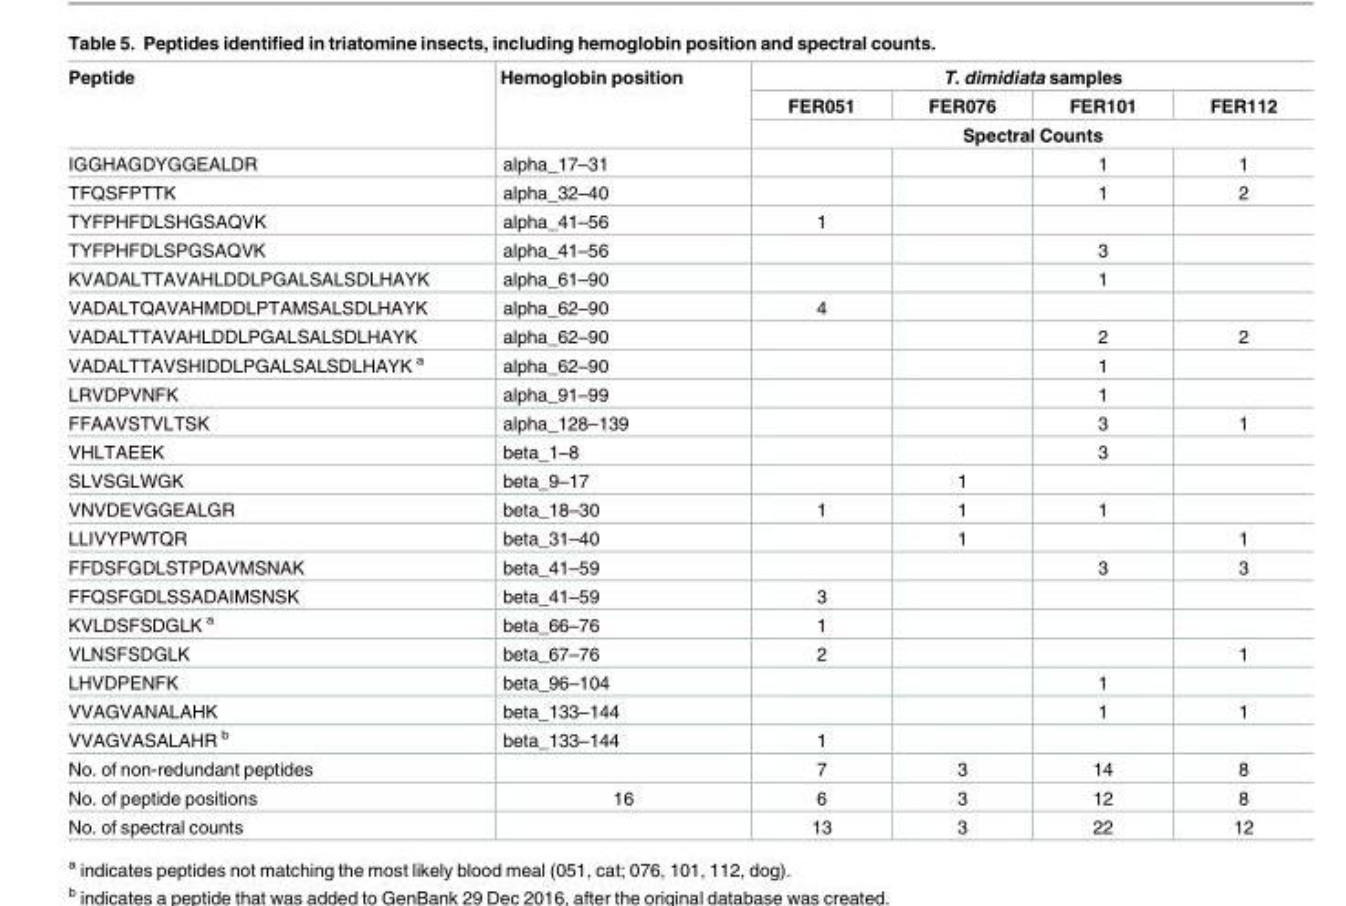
<table><thead><tr><td rowspan="3">Peptide</td><td rowspan="3">Hemoglobin position</td><td colspan="4">T. dimidiata samples</td></tr><tr><td>FER051</td><td>FER076</td><td>FER101</td><td>FER112</td></tr><tr><td colspan="4">Spectral Counts</td></tr></thead><tbody><tr><td>IGGHAGDYGGEALDR</td><td>alpha_17–31</td><td></td><td></td><td>1</td><td>1</td></tr><tr><td>TFQSFPTTK</td><td>alpha_32–40</td><td></td><td></td><td>1</td><td>2</td></tr><tr><td>TYFPHFDLSHGSAQVK</td><td>alpha_41–56</td><td>1</td><td></td><td></td><td></td></tr><tr><td>TYFPHFDLSPGSAQVK</td><td>alpha_41–56</td><td></td><td></td><td>3</td><td></td></tr><tr><td>KVADALTTAVAHLDDLPGALSALSDLHAYK</td><td>alpha_61–90</td><td></td><td></td><td>1</td><td></td></tr><tr><td>VADALTQAVAHMDDLPTAMSALSDLHAYK</td><td>alpha_62–90</td><td>4</td><td></td><td></td><td></td></tr><tr><td>VADALTTAVAHLDDLPGALSALSDLHAYK</td><td>alpha_62–90</td><td></td><td></td><td>2</td><td>2</td></tr><tr><td>VADALTTAVSHIDDLPGALSALSDLHAYK <sup>a</sup></td><td>alpha_62–90</td><td></td><td></td><td>1</td><td></td></tr><tr><td>LRVDPVNFK</td><td>alpha_91–99</td><td></td><td></td><td>1</td><td></td></tr><tr><td>FFAAVSTVLTSK</td><td>alpha_128–139</td><td></td><td></td><td>3</td><td>1</td></tr><tr><td>VHLTAEEK</td><td>beta_1–8</td><td></td><td></td><td>3</td><td></td></tr><tr><td>SLVSGLWGK</td><td>beta_9–17</td><td></td><td>1</td><td></td><td></td></tr><tr><td>VNVDEVGGEALGR</td><td>beta_18–30</td><td>1</td><td>1</td><td>1</td><td></td></tr><tr><td>LLIVYPWTQR</td><td>beta_31–40</td><td></td><td>1</td><td></td><td>1</td></tr><tr><td>FFDSFGDLSTPDAVMSNAK</td><td>beta_41–59</td><td></td><td></td><td>3</td><td>3</td></tr><tr><td>FFQSFGDLSSADAIMSNSK</td><td>beta_41–59</td><td>3</td><td></td><td></td><td></td></tr><tr><td>KVLDSFSDGLK <sup>a</sup></td><td>beta_66–76</td><td>1</td><td></td><td></td><td></td></tr><tr><td>VLNSFSDGLK</td><td>beta_67–76</td><td>2</td><td></td><td></td><td>1</td></tr><tr><td>LHVDPENFK</td><td>beta_96–104</td><td></td><td></td><td>1</td><td></td></tr><tr><td>VVAGVANALAHK</td><td>beta_133–144</td><td></td><td></td><td>1</td><td>1</td></tr><tr><td>VVAGVASALAHR <sup>b</sup></td><td>beta_133–144</td><td>1</td><td></td><td></td><td></td></tr><tr><td>No. of non-redundant peptides</td><td></td><td>7</td><td>3</td><td>14</td><td>8</td></tr><tr><td>No. of peptide positions</td><td>16</td><td>6</td><td>3</td><td>12</td><td>8</td></tr><tr><td>No. of spectral counts</td><td></td><td>13</td><td>3</td><td>22</td><td>12</td></tr></tbody></table>